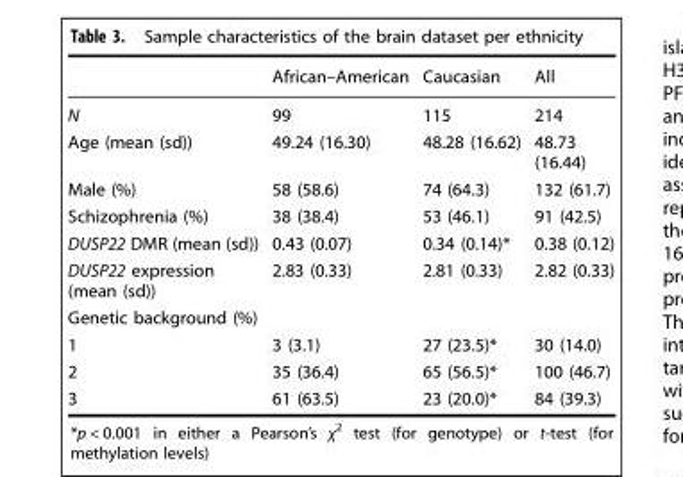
<table><thead><tr><td></td><td>African–American</td><td>Caucasian</td><td>All</td></tr></thead><tbody><tr><td>N</td><td>99</td><td>115</td><td>214</td></tr><tr><td>Age (mean (sd))</td><td>49.24 (16.30)</td><td>48.28 (16.62)</td><td>48.73 (16.44)</td></tr><tr><td>Male (%)</td><td>58 (58.6)</td><td>74 (64.3)</td><td>132 (61.7)</td></tr><tr><td>Schizophrenia (%)</td><td>38 (38.4)</td><td>53 (46.1)</td><td>91 (42.5)</td></tr><tr><td>DUSP22 DMR (mean (sd))</td><td>0.43 (0.07)</td><td>0.34 (0.14)*</td><td>0.38 (0.12)</td></tr><tr><td>DUSP22 expression (mean (sd))</td><td>2.83 (0.33)</td><td>2.81 (0.33)</td><td>2.82 (0.33)</td></tr><tr><td colspan="4">Genetic background (%)</td></tr><tr><td>1</td><td>3 (3.1)</td><td>27 (23.5)*</td><td>30 (14.0)</td></tr><tr><td>2</td><td>35 (36.4)</td><td>65 (56.5)*</td><td>100 (46.7)</td></tr><tr><td>3</td><td>61 (63.5)</td><td>23 (20.0)*</td><td>84 (39.3)</td></tr></tbody></table>